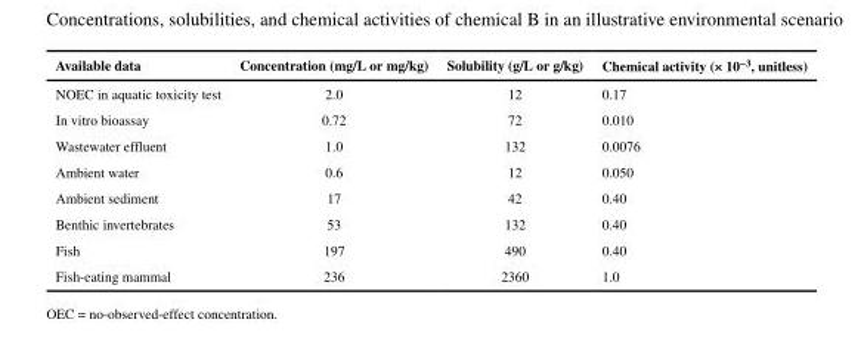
<table><thead><tr><td>Available data</td><td>Concentration (mg/L or mg/kg)</td><td>Solubility (g/L or g/kg)</td><td>Chemical activity (× 10<sup>−3</sup>, unitless)</td></tr></thead><tbody><tr><td>NOEC in aquatic toxicity test</td><td>2.0</td><td>12</td><td>0.17</td></tr><tr><td>In vitro bioassay</td><td>0.72</td><td>72</td><td>0.010</td></tr><tr><td>Wastewater effluent</td><td>1.0</td><td>132</td><td>0.0076</td></tr><tr><td>Ambient water</td><td>0.6</td><td>12</td><td>0.050</td></tr><tr><td>Ambient sediment</td><td>17</td><td>42</td><td>0.40</td></tr><tr><td>Benthic invertebrates</td><td>53</td><td>132</td><td>0.40</td></tr><tr><td>Fish</td><td>197</td><td>490</td><td>0.40</td></tr><tr><td>Fish-eating mammal</td><td>236</td><td>2360</td><td>1.0</td></tr></tbody></table>